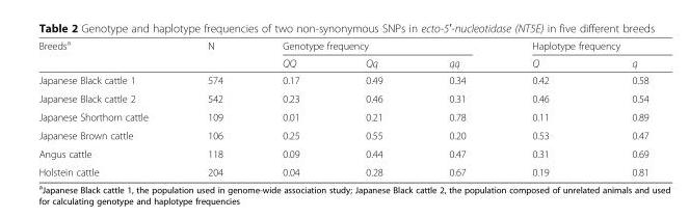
<table><thead><tr><td rowspan="2">Breeds<sup>a</sup></td><td rowspan="2">N</td><td colspan="3">Genotype frequency</td><td colspan="2">Haplotype frequency</td></tr><tr><td>QQ</td><td>Qq</td><td>qq</td><td>Q</td><td>q</td></tr></thead><tbody><tr><td>Japanese Black cattle 1</td><td>574</td><td>0.17</td><td>0.49</td><td>0.34</td><td>0.42</td><td>0.58</td></tr><tr><td>Japanese Black cattle 2</td><td>542</td><td>0.23</td><td>0.46</td><td>0.31</td><td>0.46</td><td>0.54</td></tr><tr><td>Japanese Shorthorn cattle</td><td>109</td><td>0.01</td><td>0.21</td><td>0.78</td><td>0.11</td><td>0.89</td></tr><tr><td>Japanese Brown cattle</td><td>106</td><td>0.25</td><td>0.55</td><td>0.20</td><td>0.53</td><td>0.47</td></tr><tr><td>Angus cattle</td><td>118</td><td>0.09</td><td>0.44</td><td>0.47</td><td>0.31</td><td>0.69</td></tr><tr><td>Holstein cattle</td><td>204</td><td>0.04</td><td>0.28</td><td>0.67</td><td>0.19</td><td>0.81</td></tr></tbody></table>